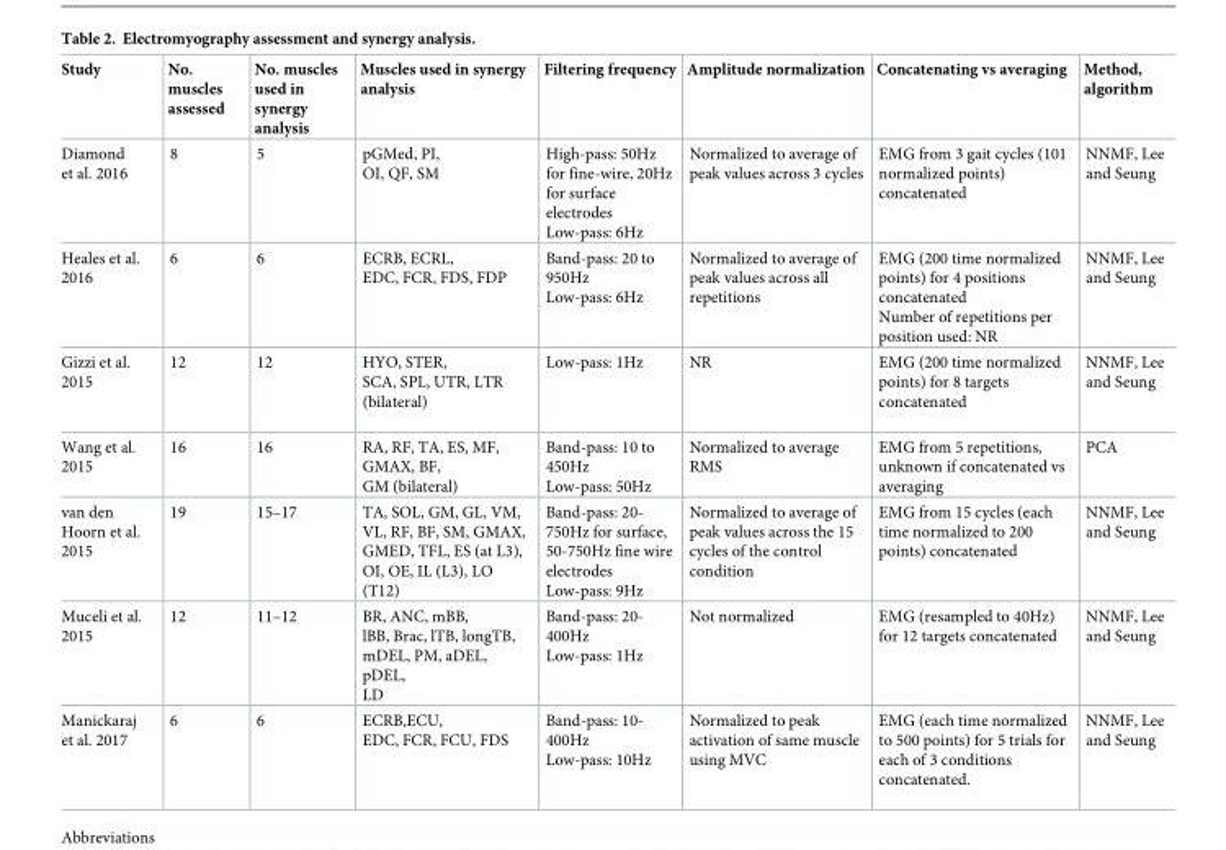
<table><thead><tr><td>Study</td><td>No. muscles assessed</td><td>No. muscles used in synergy analysis</td><td>Muscles used in synergy analysis</td><td>Filtering frequency</td><td>Amplitude normalization</td><td>Concatenating vs averaging</td><td>Method, algorithm</td></tr></thead><tbody><tr><td>Diamond et al. 2016</td><td>8</td><td>5</td><td>pGMed, PI, OI, QF, SM</td><td>High-pass: 50Hz for fine-wire, 20Hz for surface electrodes Low-pass: 6Hz</td><td>Normalized to average of peak values across 3 cycles</td><td>EMG from 3 gait cycles (101 normalized points) concatenated</td><td>NNMF, Lee and Seung</td></tr><tr><td>Heales et al. 2016</td><td>6</td><td>6</td><td>ECRB, ECRL, EDC, FCR, FDS, FDP</td><td>Band-pass: 20 to 950Hz Low-pass: 6Hz</td><td>Normalized to average of peak values across all repetitions</td><td>EMG (200 time normalized points) for 4 positions concatenated Number of repetitions per position used: NR</td><td>NNMF, Lee and Seung</td></tr><tr><td>Gizzi et al. 2015</td><td>12</td><td>12</td><td>HYO, STER, SCA, SPL, UTR, LTR (bilateral)</td><td>Low-pass: 1Hz</td><td>NR</td><td>EMG (200 time normalized points) for 8 targets concatenated</td><td>NNMF, Lee and Seung</td></tr><tr><td>Wang et al. 2015</td><td>16</td><td>16</td><td>RA, RF, TA, ES, MF, GMAX, BF, GM (bilateral)</td><td>Band-pass: 10 to 450Hz Low-pass: 50Hz</td><td>Normalized to average RMS</td><td>EMG from 5 repetitions, unknown if concatenated vs averaging</td><td>PCA</td></tr><tr><td>van den Hoorn et al. 2015</td><td>19</td><td>15–17</td><td>TA, SOL, GM, GL, VM, VL, RF, BF, SM, GMAX, GMED, TFL, ES (at L3), OI, OE, IL (L3), LO (T12)</td><td>Band-pass: 20- 750Hz for surface, 50-750Hz fine wire electrodes Low-pass: 9Hz</td><td>Normalized to average of peak values across the 15 cycles of the control condition</td><td>EMG from 15 cycles (each time normalized to 200 points) concatenated</td><td>NNMF, Lee and Seung</td></tr><tr><td>Muceli et al. 2015</td><td>12</td><td>11–12</td><td>BR, ANC, mBB, lBB, Brac, lTB, longTB, mDEL, PM, aDEL, pDEL, LD</td><td>Band-pass: 20- 400Hz Low-pass: 1Hz</td><td>Not normalized</td><td>EMG (resampled to 40Hz) for 12 targets concatenated</td><td>NNMF, Lee and Seung</td></tr><tr><td>Manickaraj et al. 2017</td><td>6</td><td>6</td><td>ECRB,ECU, EDC, FCR, FCU, FDS</td><td>Band-pass: 10- 400Hz Low-pass: 10Hz</td><td>Normalized to peak activation of same muscle using MVC</td><td>EMG (each time normalized to 500 points) for 5 trials for each of 3 conditions concatenated.</td><td>NNMF, Lee and Seung</td></tr></tbody></table>